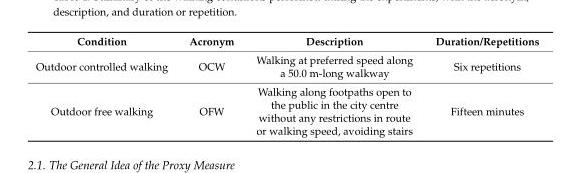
<table><thead><tr><td>Condition</td><td>Acronym</td><td>Description</td><td>Duration/Repetitions</td></tr></thead><tbody><tr><td>Outdoor controlled walking</td><td>OCW</td><td>Walking at preferred speed along a 50.0 m-long walkway</td><td>Six repetitions</td></tr><tr><td>Outdoor free walking</td><td>OFW</td><td>Walking along footpaths open to the public in the city centre without any restrictions in route or walking speed, avoiding stairs</td><td>Fifteen minutes</td></tr></tbody></table>